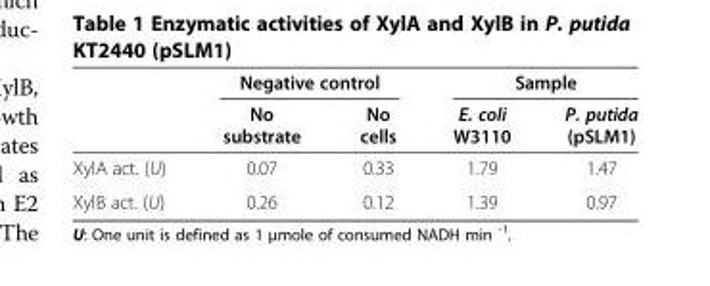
<table><thead><tr><td rowspan="2"></td><td colspan="2">Negative control</td><td colspan="2">Sample</td></tr><tr><td>No substrate</td><td>No cells</td><td>E. coli W3110</td><td>P. putida (pSLM1)</td></tr></thead><tbody><tr><td>XylA act. (U)</td><td>0.07</td><td>0.33</td><td>1.79</td><td>1.47</td></tr><tr><td>XylB act. (U)</td><td>0.26</td><td>0.12</td><td>1.39</td><td>0.97</td></tr></tbody></table>